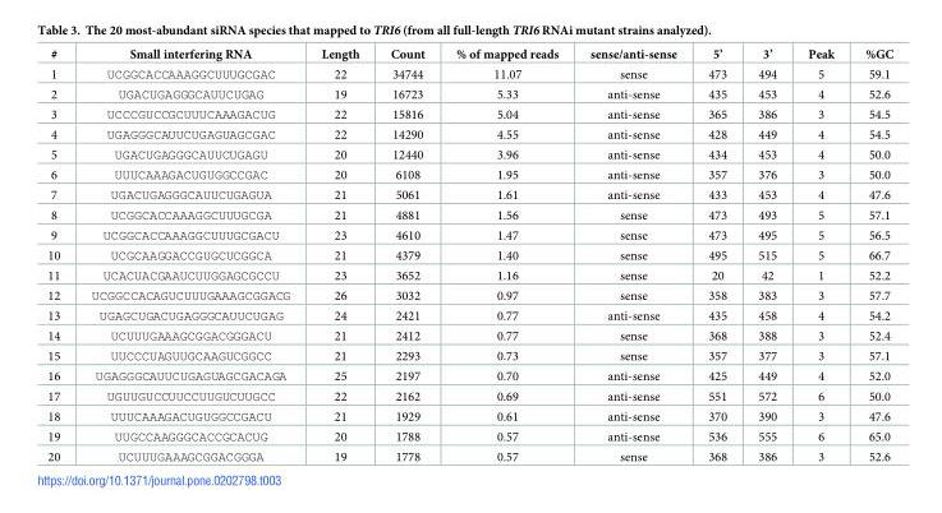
<table><thead><tr><td>#</td><td>Small interfering RNA</td><td>Length</td><td>Count</td><td>% of mapped reads</td><td>sense/anti-sense</td><td>5’</td><td>3’</td><td>Peak</td><td>%GC</td></tr></thead><tbody><tr><td>1</td><td>UCGGCACCAAAGGCUUUGCGAC</td><td>22</td><td>34744</td><td>11.07</td><td>sense</td><td>473</td><td>494</td><td>5</td><td>59.1</td></tr><tr><td>2</td><td>UGACUGAGGGCAUUCUGAG</td><td>19</td><td>16723</td><td>5.33</td><td>anti-sense</td><td>435</td><td>453</td><td>4</td><td>52.6</td></tr><tr><td>3</td><td>UCCCGUCCGCUUUCAAAGACUG</td><td>22</td><td>15816</td><td>5.04</td><td>anti-sense</td><td>365</td><td>386</td><td>3</td><td>54.5</td></tr><tr><td>4</td><td>UGAGGGCAUUCUGAGUAGCGAC</td><td>22</td><td>14290</td><td>4.55</td><td>anti-sense</td><td>428</td><td>449</td><td>4</td><td>54.5</td></tr><tr><td>5</td><td>UGACUGAGGGCAUUCUGAGU</td><td>20</td><td>12440</td><td>3.96</td><td>anti-sense</td><td>434</td><td>453</td><td>4</td><td>50.0</td></tr><tr><td>6</td><td>UUUCAAAGACUGUGGCCGAC</td><td>20</td><td>6108</td><td>1.95</td><td>anti-sense</td><td>357</td><td>376</td><td>3</td><td>50.0</td></tr><tr><td>7</td><td>UGACUGAGGGCAUUCUGAGUA</td><td>21</td><td>5061</td><td>1.61</td><td>anti-sense</td><td>433</td><td>453</td><td>4</td><td>47.6</td></tr><tr><td>8</td><td>UCGGCACCAAAGGCUUUGCGA</td><td>21</td><td>4881</td><td>1.56</td><td>sense</td><td>473</td><td>493</td><td>5</td><td>57.1</td></tr><tr><td>9</td><td>UCGGCACCAAAGGCUUUGCGACU</td><td>23</td><td>4610</td><td>1.47</td><td>sense</td><td>473</td><td>495</td><td>5</td><td>56.5</td></tr><tr><td>10</td><td>UCGCAAGGACCGUGCUCGGCA</td><td>21</td><td>4379</td><td>1.40</td><td>sense</td><td>495</td><td>515</td><td>5</td><td>66.7</td></tr><tr><td>11</td><td>UCACUACGAAUCUUGGAGCGCCU</td><td>23</td><td>3652</td><td>1.16</td><td>sense</td><td>20</td><td>42</td><td>1</td><td>52.2</td></tr><tr><td>12</td><td>UCGGCCACAGUCUUUGAAAGCGGACG</td><td>26</td><td>3032</td><td>0.97</td><td>sense</td><td>358</td><td>383</td><td>3</td><td>57.7</td></tr><tr><td>13</td><td>UGAGCUGACUGAGGGCAUUCUGAG</td><td>24</td><td>2421</td><td>0.77</td><td>anti-sense</td><td>435</td><td>458</td><td>4</td><td>54.2</td></tr><tr><td>14</td><td>UCUUUGAAAGCGGACGGGACU</td><td>21</td><td>2412</td><td>0.77</td><td>sense</td><td>368</td><td>388</td><td>3</td><td>52.4</td></tr><tr><td>15</td><td>UUCCCUAGUUGCAAGUCGGCC</td><td>21</td><td>2293</td><td>0.73</td><td>sense</td><td>357</td><td>377</td><td>3</td><td>57.1</td></tr><tr><td>16</td><td>UGAGGGCAUUCUGAGUAGCGACAGA</td><td>25</td><td>2197</td><td>0.70</td><td>anti-sense</td><td>425</td><td>449</td><td>4</td><td>52.0</td></tr><tr><td>17</td><td>UGUUGUCCUUCCUUGUCUUGCC</td><td>22</td><td>2162</td><td>0.69</td><td>anti-sense</td><td>551</td><td>572</td><td>6</td><td>50.0</td></tr><tr><td>18</td><td>UUUCAAAGACUGUGGCCGACU</td><td>21</td><td>1929</td><td>0.61</td><td>anti-sense</td><td>370</td><td>390</td><td>3</td><td>47.6</td></tr><tr><td>19</td><td>UUGCCAAGGGCACCGCACUG</td><td>20</td><td>1788</td><td>0.57</td><td>anti-sense</td><td>536</td><td>555</td><td>6</td><td>65.0</td></tr><tr><td>20</td><td>UCUUUGAAAGCGGACGGGA</td><td>19</td><td>1778</td><td>0.57</td><td>sense</td><td>368</td><td>386</td><td>3</td><td>52.6</td></tr></tbody></table>